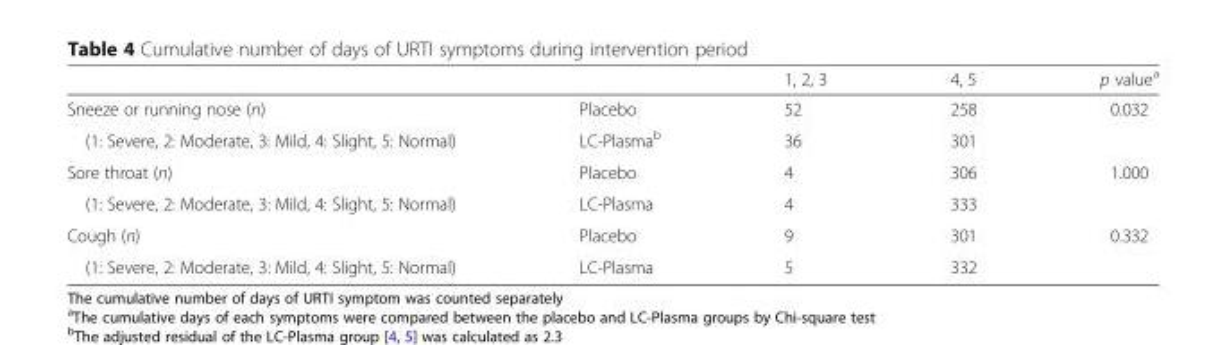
<table><thead><tr><td></td><td></td><td>1, 2, 3</td><td>4, 5</td><td>p value<sup>a</sup></td></tr></thead><tbody><tr><td>Sneeze or running nose (n)</td><td>Placebo</td><td>52</td><td>258</td><td>0.032</td></tr><tr><td>(1: Severe, 2: Moderate, 3: Mild, 4: Slight, 5: Normal)</td><td>LC-Plasma<sup>b</sup></td><td>36</td><td>301</td><td></td></tr><tr><td>Sore throat (n)</td><td>Placebo</td><td>4</td><td>306</td><td>1.000</td></tr><tr><td>(1: Severe, 2: Moderate, 3: Mild, 4: Slight, 5: Normal)</td><td>LC-Plasma</td><td>4</td><td>333</td><td></td></tr><tr><td>Cough (n)</td><td>Placebo</td><td>9</td><td>301</td><td>0.332</td></tr><tr><td>(1: Severe, 2: Moderate, 3: Mild, 4: Slight, 5: Normal)</td><td>LC-Plasma</td><td>5</td><td>332</td><td></td></tr></tbody></table>